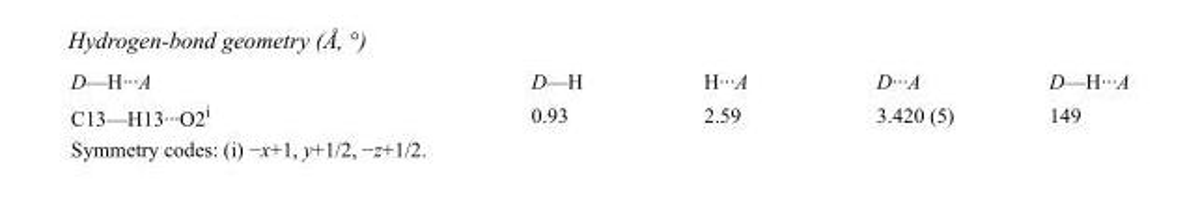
<table><tbody><tr><td>D—H···A</td><td>D—H</td><td>H···A</td><td>D···A</td><td>D—H···A</td></tr><tr><td>C13—H13···O2<sup>i</sup></td><td>0.93</td><td>2.59</td><td>3.420 (5)</td><td>149</td></tr></tbody></table>